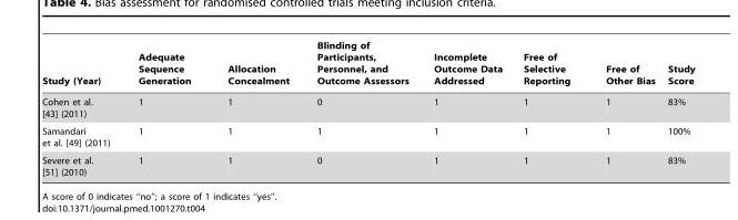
<table><thead><tr><td>Study (Year)</td><td>Adequate Sequence Generation</td><td>Allocation Concealment</td><td>Blinding of Participants, Personnel, and Outcome Assessors</td><td>Incomplete Outcome Data Addressed</td><td>Free of Selective Reporting</td><td>Free of Other Bias</td><td>Study Score</td></tr></thead><tbody><tr><td>Cohen et al. [43] (2011)</td><td>1</td><td>1</td><td>0</td><td>1</td><td>1</td><td>1</td><td>83%</td></tr><tr><td>Samandari et al. [49] (2011)</td><td>1</td><td>1</td><td>1</td><td>1</td><td>1</td><td>1</td><td>100%</td></tr><tr><td>Severe et al. [51] (2010)</td><td>1</td><td>1</td><td>0</td><td>1</td><td>1</td><td>1</td><td>83%</td></tr></tbody></table>